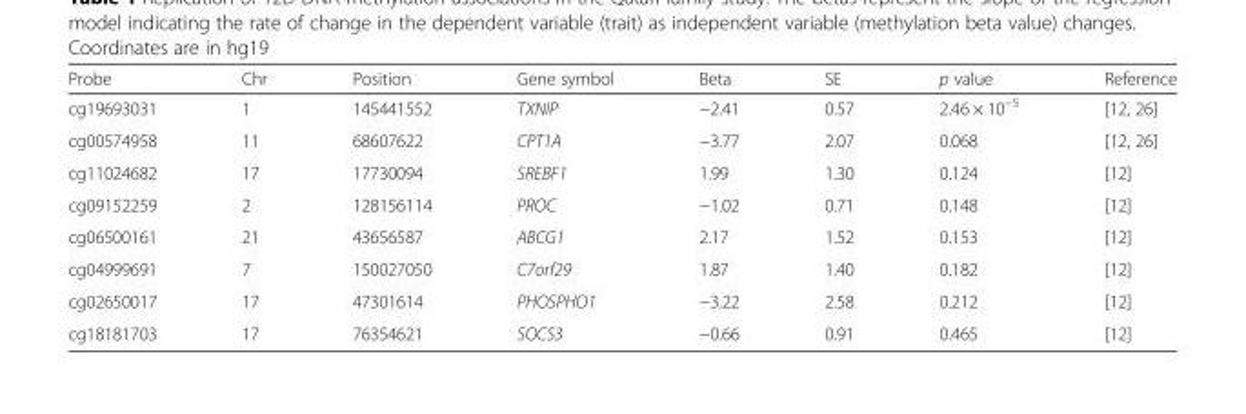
<table><thead><tr><td>Probe</td><td>Chr</td><td>Position</td><td>Gene symbol</td><td>Beta</td><td>SE</td><td>p value</td><td>Reference</td></tr></thead><tbody><tr><td>cg19693031</td><td>1</td><td>145441552</td><td>TXNIP</td><td>−2.41</td><td>0.57</td><td>2.46 × 10<sup>−5</sup></td><td>[12, 26]</td></tr><tr><td>cg00574958</td><td>11</td><td>68607622</td><td>CPT1A</td><td>−3.77</td><td>2.07</td><td>0.068</td><td>[12, 26]</td></tr><tr><td>cg11024682</td><td>17</td><td>17730094</td><td>SREBF1</td><td>1.99</td><td>1.30</td><td>0.124</td><td>[12]</td></tr><tr><td>cg09152259</td><td>2</td><td>128156114</td><td>PROC</td><td>−1.02</td><td>0.71</td><td>0.148</td><td>[12]</td></tr><tr><td>cg06500161</td><td>21</td><td>43656587</td><td>ABCG1</td><td>2.17</td><td>1.52</td><td>0.153</td><td>[12]</td></tr><tr><td>cg04999691</td><td>7</td><td>150027050</td><td>C7orf29</td><td>1.87</td><td>1.40</td><td>0.182</td><td>[12]</td></tr><tr><td>cg02650017</td><td>17</td><td>47301614</td><td>PHOSPHO1</td><td>−3.22</td><td>2.58</td><td>0.212</td><td>[12]</td></tr><tr><td>cg18181703</td><td>17</td><td>76354621</td><td>SOCS3</td><td>−0.66</td><td>0.91</td><td>0.465</td><td>[12]</td></tr></tbody></table>